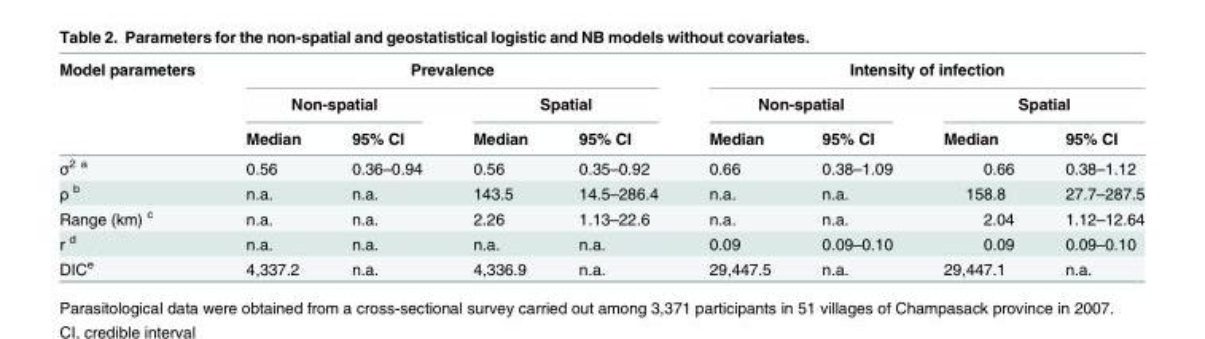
<table><thead><tr><td rowspan="3">Model parameters</td><td colspan="4">Prevalence</td><td colspan="4">Intensity of infection</td></tr><tr><td colspan="2">Non-spatial</td><td colspan="2">Spatial</td><td colspan="2">Non-spatial</td><td colspan="2">Spatial</td></tr><tr><td>Median</td><td>95% CI</td><td>Median</td><td>95% CI</td><td>Median</td><td>95% CI</td><td>Median</td><td>95% CI</td></tr></thead><tbody><tr><td>σ<sup>2 a</sup></td><td>0.56</td><td>0.36–0.94</td><td>0.56</td><td>0.35–0.92</td><td>0.66</td><td>0.38–1.09</td><td>0.66</td><td>0.38–1.12</td></tr><tr><td>ρ <sup>b</sup></td><td>n.a.</td><td>n.a.</td><td>143.5</td><td>14.5–286.4</td><td>n.a.</td><td>n.a.</td><td>158.8</td><td>27.7–287.5</td></tr><tr><td>Range (km) <sup>c</sup></td><td>n.a.</td><td>n.a.</td><td>2.26</td><td>1.13–22.6</td><td>n.a.</td><td>n.a.</td><td>2.04</td><td>1.12–12.64</td></tr><tr><td>r <sup>d</sup></td><td>n.a.</td><td>n.a.</td><td>n.a.</td><td>n.a.</td><td>0.09</td><td>0.09–0.10</td><td>0.09</td><td>0.09–0.10</td></tr><tr><td>DIC<sup>e</sup></td><td>4,337.2</td><td>n.a.</td><td>4,336.9</td><td>n.a.</td><td>29,447.5</td><td>n.a.</td><td>29,447.1</td><td>n.a.</td></tr></tbody></table>